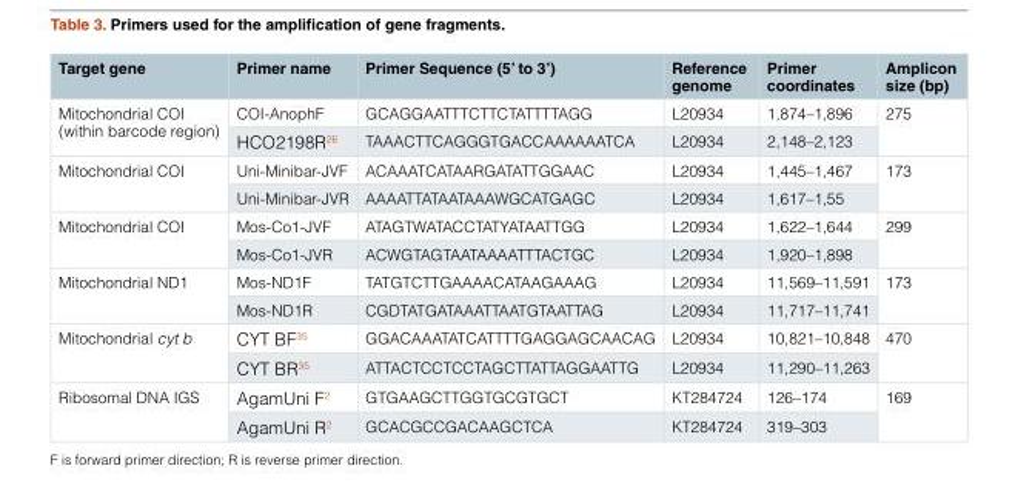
<table><thead><tr><td>Target gene</td><td>Primer name</td><td>Primer Sequence (5’ to 3’)</td><td>Reference genome</td><td>Primer coordinates</td><td>Amplicon size (bp)</td></tr></thead><tbody><tr><td rowspan="2">Mitochondrial COI (within barcode region)</td><td>COI-AnophF</td><td>GCAGGAATTTCTTCTATTTTAGG</td><td>L20934</td><td>1,874–1,896</td><td rowspan="2">275</td></tr><tr><td>HCO2198R<sup>26</sup></td><td>TAAACTTCAGGGTGACCAAAAAATCA</td><td>L20934</td><td>2,148–2,123</td></tr><tr><td rowspan="2">Mitochondrial COI</td><td>Uni-Minibar-JVF</td><td>ACAAATCATAARGATATTGGAAC</td><td>L20934</td><td>1,445–1,467</td><td rowspan="2">173</td></tr><tr><td>Uni-Minibar-JVR</td><td>AAAATTATAATAAAWGCATGAGC</td><td>L20934</td><td>1,617–1,55</td></tr><tr><td rowspan="2">Mitochondrial COI</td><td>Mos-Co1-JVF</td><td>ATAGTWATACCTATYATAATTGG</td><td>L20934</td><td>1,622–1,644</td><td rowspan="2">299</td></tr><tr><td>Mos-Co1-JVR</td><td>ACWGTAGTAATAAAATTTACTGC</td><td>L20934</td><td>1,920–1,898</td></tr><tr><td rowspan="2">Mitochondrial ND1</td><td>Mos-ND1F</td><td>TATGTCTTGAAAACATAAGAAAG</td><td>L20934</td><td>11,569–11,591</td><td rowspan="2">173</td></tr><tr><td>Mos-ND1R</td><td>CGDTATGATAAATTAATGTAATTAG</td><td>L20934</td><td>11,717–11,741</td></tr><tr><td rowspan="2">Mitochondrial cyt b</td><td>CYT BF<sup>35</sup></td><td>GGACAAATATCATTTTGAGGAGCAACAG</td><td>L20934</td><td>10,821–10,848</td><td rowspan="2">470</td></tr><tr><td>CYT BR<sup>35</sup></td><td>ATTACTCCTCCTAGCTTATTAGGAATTG</td><td>L20934</td><td>11,290–11,263</td></tr><tr><td rowspan="2">Ribosomal DNA IGS</td><td>AgamUni F<sup>2</sup></td><td>GTGAAGCTTGGTGCGTGCT</td><td>KT284724</td><td>126–174</td><td rowspan="2">169</td></tr><tr><td>AgamUni R<sup>2</sup></td><td>GCACGCCGACAAGCTCA</td><td>KT284724</td><td>319–303</td></tr></tbody></table>